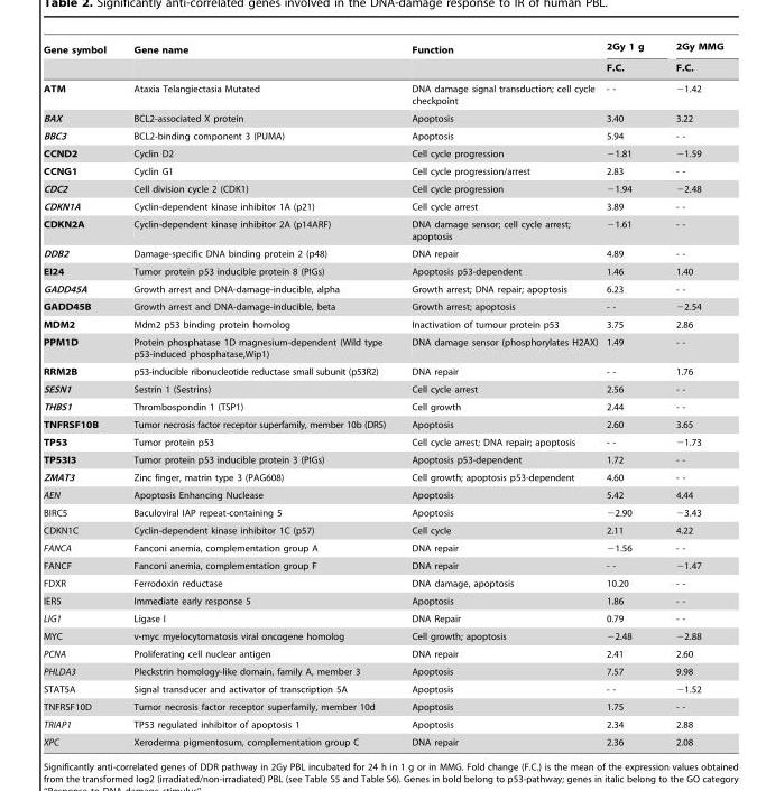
<table><thead><tr><td rowspan="2">Gene symbol</td><td rowspan="2">Gene name</td><td rowspan="2">Function</td><td rowspan="2">2Gy 1 g F.C.</td><td rowspan="2">2Gy MMG F.C.</td></tr><tr></tr></thead><tbody><tr><td>ATM</td><td>Ataxia Telangiectasia Mutated</td><td>DNA damage signal transduction; cell cycle checkpoint</td><td>- -</td><td>−1.42</td></tr><tr><td>BAX</td><td>BCL2-associated X protein</td><td>Apoptosis</td><td>3.40</td><td>3.22</td></tr><tr><td>BBC3</td><td>BCL2-binding component 3 (PUMA)</td><td>Apoptosis</td><td>5.94</td><td>- -</td></tr><tr><td>CCND2</td><td>Cyclin D2</td><td>Cell cycle progression</td><td>−1.81</td><td>−1.59</td></tr><tr><td>CCNG1</td><td>Cyclin G1</td><td>Cell cycle progression/arrest</td><td>2.83</td><td>- -</td></tr><tr><td>CDC2</td><td>Cell division cycle 2 (CDK1)</td><td>Cell cycle progression</td><td>−1.94</td><td>−2.48</td></tr><tr><td>CDKN1A</td><td>Cyclin-dependent kinase inhibitor 1A (p21)</td><td>Cell cycle arrest</td><td>3.89</td><td>- -</td></tr><tr><td>CDKN2A</td><td>Cyclin-dependent kinase inhibitor 2A (p14ARF)</td><td>DNA damage sensor; cell cycle arrest; apoptosis</td><td>−1.61</td><td>- -</td></tr><tr><td>DDB2</td><td>Damage-specific DNA binding protein 2 (p48)</td><td>DNA repair</td><td>4.89</td><td>- -</td></tr><tr><td>EI24</td><td>Tumor protein p53 inducible protein 8 (PIGs)</td><td>Apoptosis p53-dependent</td><td>1.46</td><td>1.40</td></tr><tr><td>GADD45A</td><td>Growth arrest and DNA-damage-inducible, alpha</td><td>Growth arrest; DNA repair; apoptosis</td><td>6.23</td><td>- -</td></tr><tr><td>GADD45B</td><td>Growth arrest and DNA-damage-inducible, beta</td><td>Growth arrest; apoptosis</td><td>- -</td><td>−2.54</td></tr><tr><td>MDM2</td><td>Mdm2 p53 binding protein homolog</td><td>Inactivation of tumour protein p53</td><td>3.75</td><td>2.86</td></tr><tr><td>PPM1D</td><td>Protein phosphatase 1D magnesium-dependent (Wild type p53-induced phosphatase,Wip1)</td><td>DNA damage sensor (phosphorylates H2AX)</td><td>1.49</td><td>- -</td></tr><tr><td>RRM2B</td><td>p53-inducible ribonucleotide reductase small subunit (p53R2)</td><td>DNA repair</td><td>- -</td><td>1.76</td></tr><tr><td>SESN1</td><td>Sestrin 1 (Sestrins)</td><td>Cell cycle arrest</td><td>2.56</td><td>- -</td></tr><tr><td>THBS1</td><td>Thrombospondin 1 (TSP1)</td><td>Cell growth</td><td>2.44</td><td>- -</td></tr><tr><td>TNFRSF10B</td><td>Tumor necrosis factor receptor superfamily, member 10b (DR5)</td><td>Apoptosis</td><td>2.60</td><td>3.65</td></tr><tr><td>TP53</td><td>Tumor protein p53</td><td>Cell cycle arrest; DNA repair; apoptosis</td><td>- -</td><td>−1.73</td></tr><tr><td>TP53I3</td><td>Tumor protein p53 inducible protein 3 (PIGs)</td><td>Apoptosis p53-dependent</td><td>1.72</td><td>- -</td></tr><tr><td>ZMAT3</td><td>Zinc finger, matrin type 3 (PAG608)</td><td>Cell growth; apoptosis p53-dependent</td><td>4.60</td><td>- -</td></tr><tr><td>AEN</td><td>Apoptosis Enhancing Nuclease</td><td>Apoptosis</td><td>5.42</td><td>4.44</td></tr><tr><td>BIRC5</td><td>Baculoviral IAP repeat-containing 5</td><td>Apoptosis</td><td>−2.90</td><td>−3.43</td></tr><tr><td>CDKN1C</td><td>Cyclin-dependent kinase inhibitor 1C (p57)</td><td>Cell cycle</td><td>2.11</td><td>4.22</td></tr><tr><td>FANCA</td><td>Fanconi anemia, complementation group A</td><td>DNA repair</td><td>−1.56</td><td>- -</td></tr><tr><td>FANCF</td><td>Fanconi anemia, complementation group F</td><td>DNA repair</td><td>- -</td><td>−1.47</td></tr><tr><td>FDXR</td><td>Ferrodoxin reductase</td><td>DNA damage, apoptosis</td><td>10.20</td><td>- -</td></tr><tr><td>IER5</td><td>Immediate early response 5</td><td>Apoptosis</td><td>1.86</td><td>- -</td></tr><tr><td>LIG1</td><td>Ligase I</td><td>DNA Repair</td><td>0.79</td><td>- -</td></tr><tr><td>MYC</td><td>v-myc myelocytomatosis viral oncogene homolog</td><td>Cell growth; apoptosis</td><td>−2.48</td><td>−2.88</td></tr><tr><td>PCNA</td><td>Proliferating cell nuclear antigen</td><td>DNA repair</td><td>2.41</td><td>2.60</td></tr><tr><td>PHLDA3</td><td>Pleckstrin homology-like domain, family A, member 3</td><td>Apoptosis</td><td>7.57</td><td>9.98</td></tr><tr><td>STAT5A</td><td>Signal transducer and activator of transcription 5A</td><td>Apoptosis</td><td>- -</td><td>−1.52</td></tr><tr><td>TNFRSF10D</td><td>Tumor necrosis factor receptor superfamily, member 10d</td><td>Apoptosis</td><td>1.75</td><td>- -</td></tr><tr><td>TRIAP1</td><td>TP53 regulated inhibitor of apoptosis 1</td><td>Apoptosis</td><td>2.34</td><td>2.88</td></tr><tr><td>XPC</td><td>Xeroderma pigmentosum, complementation group C</td><td>DNA repair</td><td>2.36</td><td>2.08</td></tr></tbody></table>